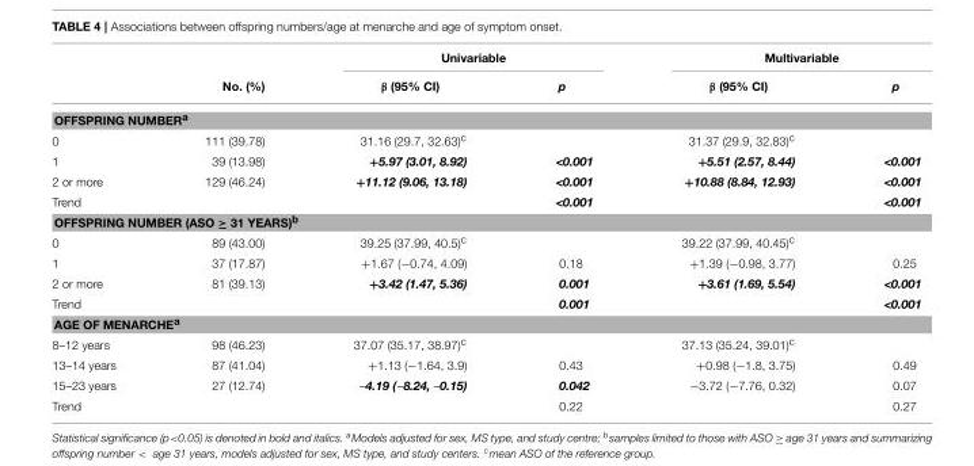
<table><thead><tr><td rowspan="2"></td><td rowspan="2">No. (%)</td><td colspan="2">Univariable</td><td colspan="2">Multivariable</td></tr><tr><td>β (95% CI)</td><td>p</td><td>β (95% CI)</td><td>p</td></tr></thead><tbody><tr><td colspan="6">OFFSPRING NUMBER<sup>a</sup></td></tr><tr><td>0</td><td>111 (39.78)</td><td>31.16 (29.7, 32.63)<sup>c</sup></td><td></td><td>31.37 (29.9, 32.83)<sup>c</sup></td><td></td></tr><tr><td>1</td><td>39 (13.98)</td><td>+5.97 (3.01, 8.92)</td><td>&lt;0.001</td><td>+5.51 (2.57, 8.44)</td><td>&lt;0.001</td></tr><tr><td>2 or more</td><td>129 (46.24)</td><td>+11.12 (9.06, 13.18)</td><td>&lt;0.001</td><td>+10.88 (8.84, 12.93)</td><td>&lt;0.001</td></tr><tr><td>Trend</td><td></td><td></td><td>&lt;0.001</td><td></td><td>&lt;0.001</td></tr><tr><td colspan="6">OFFSPRING NUMBER (ASO ≥ 31 YEARS)<sup>b</sup></td></tr><tr><td>0</td><td>89 (43.00)</td><td>39.25 (37.99, 40.5)<sup>c</sup></td><td></td><td>39.22 (37.99, 40.45)<sup>c</sup></td><td></td></tr><tr><td>1</td><td>37 (17.87)</td><td>+1.67 (−0.74, 4.09)</td><td>0.18</td><td>+1.39 (−0.98, 3.77)</td><td>0.25</td></tr><tr><td>2 or more</td><td>81 (39.13)</td><td>+3.42 (1.47, 5.36)</td><td>0.001</td><td>+3.61 (1.69, 5.54)</td><td>&lt;0.001</td></tr><tr><td>Trend</td><td></td><td></td><td>0.001</td><td></td><td>&lt;0.001</td></tr><tr><td colspan="6">AGE OF MENARCHE<sup>a</sup></td></tr><tr><td>8–12 years</td><td>98 (46.23)</td><td>37.07 (35.17, 38.97)<sup>c</sup></td><td></td><td>37.13 (35.24, 39.01)<sup>c</sup></td><td></td></tr><tr><td>13–14 years</td><td>87 (41.04)</td><td>+1.13 (−1.64, 3.9)</td><td>0.43</td><td>+0.98 (−1.8, 3.75)</td><td>0.49</td></tr><tr><td>15–23 years</td><td>27 (12.74)</td><td>–4.19 (–8.24, –0.15)</td><td>0.042</td><td>−3.72 (−7.76, 0.32)</td><td>0.07</td></tr><tr><td>Trend</td><td></td><td></td><td>0.22</td><td></td><td>0.27</td></tr></tbody></table>